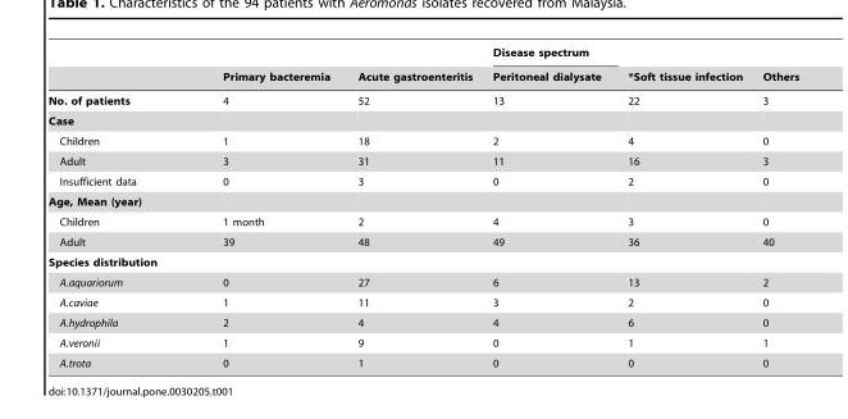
<table><thead><tr><td rowspan="2"></td><td rowspan="2">Primary bacteremia</td><td rowspan="2">Acute gastroenteritis</td><td rowspan="2">Disease spectrum Peritoneal dialysate</td><td rowspan="2">*Soft tissue infection</td><td rowspan="2">Others</td></tr><tr></tr></thead><tbody><tr><td>No. of patients</td><td>4</td><td>52</td><td>13</td><td>22</td><td>3</td></tr><tr><td colspan="6">Case</td></tr><tr><td>Children</td><td>1</td><td>18</td><td>2</td><td>4</td><td>0</td></tr><tr><td>Adult</td><td>3</td><td>31</td><td>11</td><td>16</td><td>3</td></tr><tr><td>Insufficient data</td><td>0</td><td>3</td><td>0</td><td>2</td><td>0</td></tr><tr><td colspan="6">Age, Mean (year)</td></tr><tr><td>Children</td><td>1 month</td><td>2</td><td>4</td><td>3</td><td>0</td></tr><tr><td>Adult</td><td>39</td><td>48</td><td>49</td><td>36</td><td>40</td></tr><tr><td colspan="6">Species distribution</td></tr><tr><td>A.aquariorum</td><td>0</td><td>27</td><td>6</td><td>13</td><td>2</td></tr><tr><td>A.caviae</td><td>1</td><td>11</td><td>3</td><td>2</td><td>0</td></tr><tr><td>A.hydrophila</td><td>2</td><td>4</td><td>4</td><td>6</td><td>0</td></tr><tr><td>A.veronii</td><td>1</td><td>9</td><td>0</td><td>1</td><td>1</td></tr><tr><td>A.trota</td><td>0</td><td>1</td><td>0</td><td>0</td><td>0</td></tr></tbody></table>